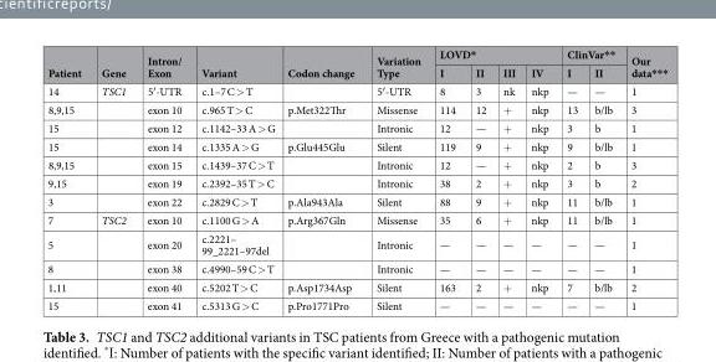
<table><thead><tr><td rowspan="2">Patient</td><td rowspan="2">Gene</td><td rowspan="2">Intron/ Exon</td><td rowspan="2">Variant</td><td rowspan="2">Codon change</td><td rowspan="2">Variation Type</td><td colspan="4">LOVD*</td><td colspan="2">ClinVar**</td><td rowspan="2">Our data***</td></tr><tr><td>I</td><td>II</td><td>III</td><td>IV</td><td>I</td><td>II</td></tr></thead><tbody><tr><td>14</td><td>TSC1</td><td>5′-UTR</td><td>c.1–7 C &gt; T</td><td></td><td>5′-UTR</td><td>8</td><td>3</td><td>nk</td><td>nkp</td><td>—</td><td>—</td><td>1</td></tr><tr><td>8,9,15</td><td></td><td>exon 10</td><td>c.965 T &gt; C</td><td>p.Met322Thr</td><td>Missense</td><td>114</td><td>12</td><td>+</td><td>nkp</td><td>13</td><td>b/lb</td><td>3</td></tr><tr><td>15</td><td></td><td>exon 12</td><td>c.1142–33 A &gt; G</td><td></td><td>Intronic</td><td>12</td><td>—</td><td>+</td><td>nkp</td><td>3</td><td>b</td><td>1</td></tr><tr><td>15</td><td></td><td>exon 14</td><td>c.1335 A &gt; G</td><td>p.Glu445Glu</td><td>Silent</td><td>119</td><td>9</td><td>+</td><td>nkp</td><td>9</td><td>b/lb</td><td>1</td></tr><tr><td>8,9,15</td><td></td><td>exon 15</td><td>c.1439–37 C &gt; T</td><td></td><td>Intronic</td><td>12</td><td>—</td><td>+</td><td>nkp</td><td>2</td><td>b</td><td>3</td></tr><tr><td>9,15</td><td></td><td>exon 19</td><td>c.2392–35 T &gt; C</td><td></td><td>Intronic</td><td>38</td><td>2</td><td>+</td><td>nkp</td><td>3</td><td>b</td><td>2</td></tr><tr><td>3</td><td></td><td>exon 22</td><td>c.2829 C &gt; T</td><td>p.Ala943Ala</td><td>Silent</td><td>88</td><td>9</td><td>+</td><td>nkp</td><td>11</td><td>b/lb</td><td>1</td></tr><tr><td>7</td><td>TSC2</td><td>exon 10</td><td>c.1100 G &gt; A</td><td>p.Arg367Gln</td><td>Missense</td><td>35</td><td>6</td><td>+</td><td>nkp</td><td>11</td><td>b/lb</td><td>1</td></tr><tr><td>5</td><td></td><td>exon 20</td><td>c.2221– 99_2221–97del</td><td></td><td>Intronic</td><td>—</td><td>—</td><td>—</td><td>—</td><td>—</td><td>—</td><td>1</td></tr><tr><td>8</td><td></td><td>exon 38</td><td>c.4990–59 C &gt; T</td><td></td><td>Intronic</td><td>—</td><td>—</td><td>—</td><td>—</td><td>—</td><td>—</td><td>1</td></tr><tr><td>1,11</td><td></td><td>exon 40</td><td>c.5202 T &gt; C</td><td>p.Asp1734Asp</td><td>Silent</td><td>163</td><td>2</td><td>+</td><td>nkp</td><td>7</td><td>b/lb</td><td>2</td></tr><tr><td>15</td><td></td><td>exon 41</td><td>c.5313 G &gt; C</td><td>p.Pro1771Pro</td><td>Silent</td><td>—</td><td>—</td><td>—</td><td>—</td><td>—</td><td>—</td><td>1</td></tr></tbody></table>